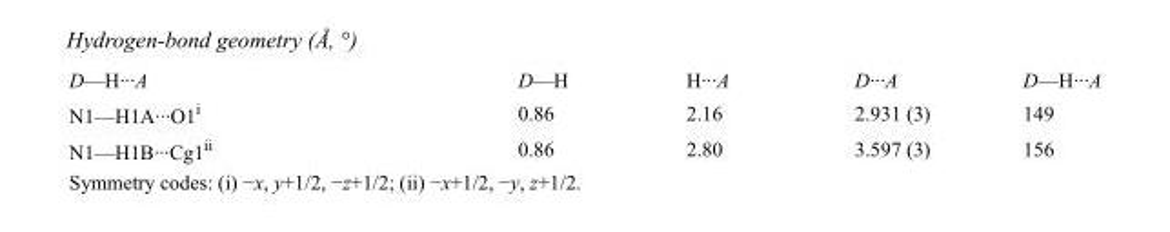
<table><tbody><tr><td>D—H···A</td><td>D—H</td><td>H···A</td><td>D···A</td><td>D—H···A</td></tr><tr><td>N1—H1A···O1<sup>i</sup></td><td>0.86</td><td>2.16</td><td>2.931 (3)</td><td>149</td></tr><tr><td>N1—H1B···Cg1<sup>ii</sup></td><td>0.86</td><td>2.80</td><td>3.597 (3)</td><td>156</td></tr></tbody></table>